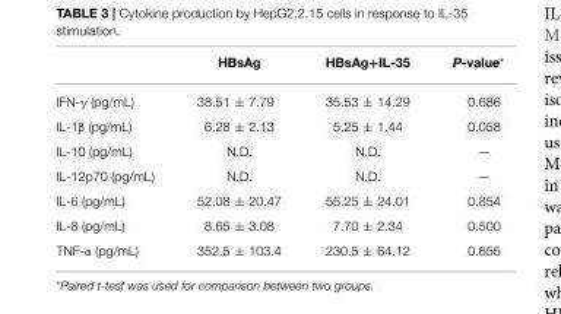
<table><thead><tr><td></td><td>HBsAg</td><td>HBsAg+IL-35</td><td>P-value*</td></tr></thead><tbody><tr><td>IFN-γ (pg/mL)</td><td>38.51 ± 7.79</td><td>35.53 ± 14.29</td><td>0.686</td></tr><tr><td>IL-1β (pg/mL)</td><td>6.28 ± 2.13</td><td>5.25 ± 1.44</td><td>0.058</td></tr><tr><td>IL-10 (pg/mL)</td><td>N.D.</td><td>N.D.</td><td>—</td></tr><tr><td>IL-12p70 (pg/mL)</td><td>N.D.</td><td>N.D.</td><td>—</td></tr><tr><td>IL-6 (pg/mL)</td><td>52.08 ± 20.47</td><td>55.25 ± 24.01</td><td>0.854</td></tr><tr><td>IL-8 (pg/mL)</td><td>8.65 ± 3.08</td><td>7.70 ± 2.34</td><td>0.500</td></tr><tr><td>TNF-α (pg/mL)</td><td>352.5 ± 103.4</td><td>230.5 ± 64.12</td><td>0.655</td></tr></tbody></table>